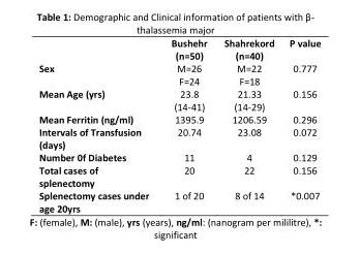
<table><thead><tr><td></td><td>Bushehr (n=50)</td><td>Shahrekord (n=40)</td><td>P value</td></tr></thead><tbody><tr><td>Sex</td><td>M=26 F=24</td><td>M=22 F=18</td><td>0.777</td></tr><tr><td>Mean Age (yrs)</td><td>23.8 (14-41)</td><td>21.33 (14-29)</td><td>0.156</td></tr><tr><td>Mean Ferritin (ng/ml)</td><td>1395.9</td><td>1206.59</td><td>0.296</td></tr><tr><td>Intervals of Transfusion (days)</td><td>20.74</td><td>23.08</td><td>0.072</td></tr><tr><td>Number 0f Diabetes</td><td>11</td><td>4</td><td>0.129</td></tr><tr><td>Total cases of splenectomy</td><td>20</td><td>22</td><td>0.156</td></tr><tr><td>Splenectomy cases under age 20yrs</td><td>1 of 20</td><td>8 of 14</td><td>*0.007</td></tr></tbody></table>